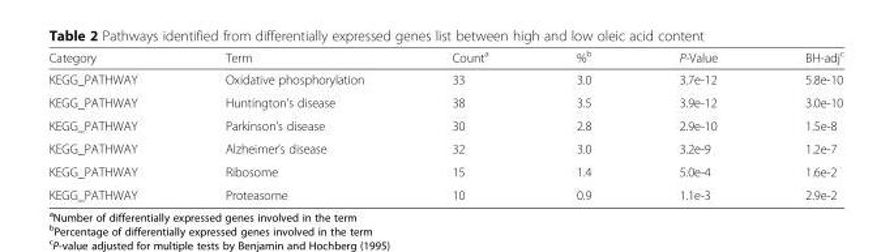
<table><thead><tr><td>Category</td><td>Term</td><td>Count<sup>a</sup></td><td>%<sup>b</sup></td><td>P-Value</td><td>BH-adj<sup>c</sup></td></tr></thead><tbody><tr><td>KEGG_PATHWAY</td><td>Oxidative phosphorylation</td><td>33</td><td>3.0</td><td>3.7e-12</td><td>5.8e-10</td></tr><tr><td>KEGG_PATHWAY</td><td>Huntington’s disease</td><td>38</td><td>3.5</td><td>3.9e-12</td><td>3.0e-10</td></tr><tr><td>KEGG_PATHWAY</td><td>Parkinson’s disease</td><td>30</td><td>2.8</td><td>2.9e-10</td><td>1.5e-8</td></tr><tr><td>KEGG_PATHWAY</td><td>Alzheimer’s disease</td><td>32</td><td>3.0</td><td>3.2e-9</td><td>1.2e-7</td></tr><tr><td>KEGG_PATHWAY</td><td>Ribosome</td><td>15</td><td>1.4</td><td>5.0e-4</td><td>1.6e-2</td></tr><tr><td>KEGG_PATHWAY</td><td>Proteasome</td><td>10</td><td>0.9</td><td>1.1e-3</td><td>2.9e-2</td></tr></tbody></table>